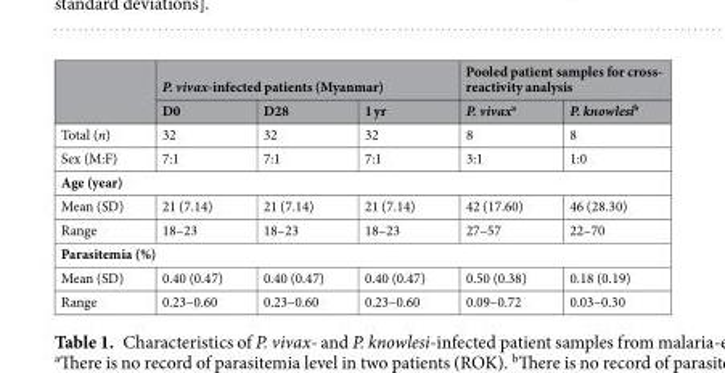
<table><thead><tr><td rowspan="2"></td><td colspan="3">P. vivax-infected patients (Myanmar)</td><td colspan="2">Pooled patient samples for cross- reactivity analysis</td></tr><tr><td>D0</td><td>D28</td><td>1 yr</td><td>P. vivax<sup>a</sup></td><td>P. knowlesi<sup>b</sup></td></tr></thead><tbody><tr><td>Total (n)</td><td>32</td><td>32</td><td>32</td><td>8</td><td>8</td></tr><tr><td>Sex (M:F)</td><td>7:1</td><td>7:1</td><td>7:1</td><td>3:1</td><td>1:0</td></tr><tr><td colspan="6">Age (year)</td></tr><tr><td>Mean (SD)</td><td>21 (7.14)</td><td>21 (7.14)</td><td>21 (7.14)</td><td>42 (17.60)</td><td>46 (28.30)</td></tr><tr><td>Range</td><td>18–23</td><td>18–23</td><td>18–23</td><td>27–57</td><td>22–70</td></tr><tr><td colspan="6">Parasitemia (%)</td></tr><tr><td>Mean (SD)</td><td>0.40 (0.47)</td><td>0.40 (0.47)</td><td>0.40 (0.47)</td><td>0.50 (0.38)</td><td>0.18 (0.19)</td></tr><tr><td>Range</td><td>0.23–0.60</td><td>0.23–0.60</td><td>0.23–0.60</td><td>0.09–0.72</td><td>0.03–0.30</td></tr></tbody></table>